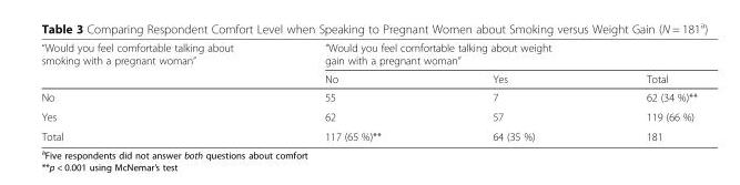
<table><thead><tr><td rowspan="2">“Would you feel comfortable talking about smoking with a pregnant woman”</td><td colspan="3">“Would you feel comfortable talking about weight gain with a pregnant woman”</td></tr><tr><td>No</td><td>Yes</td><td>Total</td></tr></thead><tbody><tr><td>No</td><td>55</td><td>7</td><td>62 (34 %)**</td></tr><tr><td>Yes</td><td>62</td><td>57</td><td>119 (66 %)</td></tr><tr><td>Total</td><td>117 (65 %)**</td><td>64 (35 %)</td><td>181</td></tr></tbody></table>